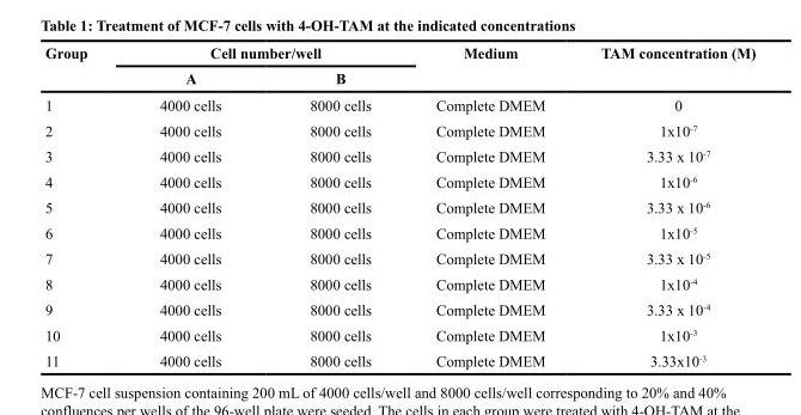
<table><thead><tr><td rowspan="2">Group</td><td colspan="2">Cell number/well</td><td rowspan="2">Medium</td><td rowspan="2">TAM concentration (M)</td></tr><tr><td>A</td><td>B</td></tr></thead><tbody><tr><td>1</td><td>4000 cells</td><td>8000 cells</td><td>Complete DMEM</td><td>0</td></tr><tr><td>2</td><td>4000 cells</td><td>8000 cells</td><td>Complete DMEM</td><td>1x10-7</td></tr><tr><td>3</td><td>4000 cells</td><td>8000 cells</td><td>Complete DMEM</td><td>3.33 x 10-7</td></tr><tr><td>4</td><td>4000 cells</td><td>8000 cells</td><td>Complete DMEM</td><td>1x10-6</td></tr><tr><td>5</td><td>4000 cells</td><td>8000 cells</td><td>Complete DMEM</td><td>3.33 x 10-6</td></tr><tr><td>6</td><td>4000 cells</td><td>8000 cells</td><td>Complete DMEM</td><td>1x10-5</td></tr><tr><td>7</td><td>4000 cells</td><td>8000 cells</td><td>Complete DMEM</td><td>3.33 x 10-5</td></tr><tr><td>8</td><td>4000 cells</td><td>8000 cells</td><td>Complete DMEM</td><td>1x10-4</td></tr><tr><td>9</td><td>4000 cells</td><td>8000 cells</td><td>Complete DMEM</td><td>3.33 x 10-4</td></tr><tr><td>10</td><td>4000 cells</td><td>8000 cells</td><td>Complete DMEM</td><td>1x10-3</td></tr><tr><td>11</td><td>4000 cells</td><td>8000 cells</td><td>Complete DMEM</td><td>3.33x10-3</td></tr></tbody></table>